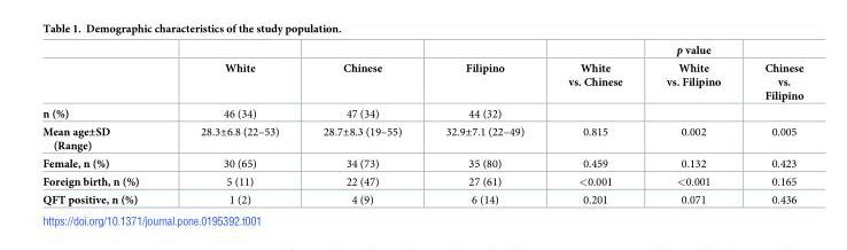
<table><thead><tr><td rowspan="2"></td><td rowspan="2">White</td><td rowspan="2">Chinese</td><td rowspan="2">Filipino</td><td rowspan="2">White vs. Chinese</td><td rowspan="2">p value White vs. Filipino</td><td rowspan="2">Chinese vs. Filipino</td></tr><tr></tr></thead><tbody><tr><td>n (%)</td><td>46 (34)</td><td>47 (34)</td><td>44 (32)</td><td></td><td></td><td></td></tr><tr><td>Mean age±SD (Range)</td><td>28.3±6.8 (22–53)</td><td>28.7±8.3 (19–55)</td><td>32.9±7.1 (22–49)</td><td>0.815</td><td>0.002</td><td>0.005</td></tr><tr><td>Female, n (%)</td><td>30 (65)</td><td>34 (73)</td><td>35 (80)</td><td>0.459</td><td>0.132</td><td>0.423</td></tr><tr><td>Foreign birth, n (%)</td><td>5 (11)</td><td>22 (47)</td><td>27 (61)</td><td>&lt;0.001</td><td>&lt;0.001</td><td>0.165</td></tr><tr><td>QFT positive, n (%)</td><td>1 (2)</td><td>4 (9)</td><td>6 (14)</td><td>0.201</td><td>0.071</td><td>0.436</td></tr></tbody></table>